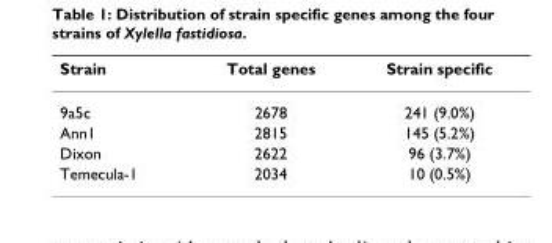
<table><thead><tr><td>Strain</td><td>Total genes</td><td>Strain specific</td></tr></thead><tbody><tr><td>9a5c</td><td>2678</td><td>241 (9.0%)</td></tr><tr><td>Ann1</td><td>2815</td><td>145 (5.2%)</td></tr><tr><td>Dixon</td><td>2622</td><td>96 (3.7%)</td></tr><tr><td>Temecula-1</td><td>2034</td><td>10 (0.5%)</td></tr></tbody></table>